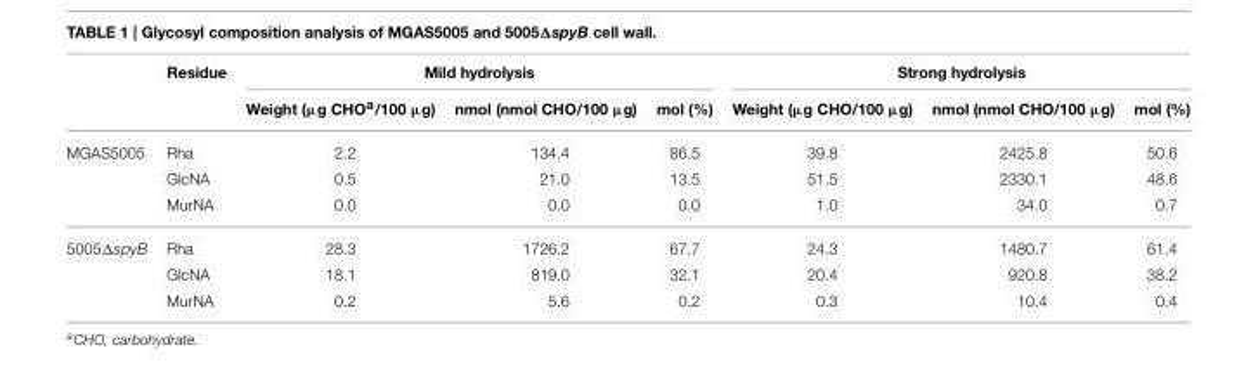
<table><thead><tr><td rowspan="2"></td><td rowspan="2">Residue</td><td colspan="3">Mild hydrolysis</td><td colspan="3">Strong hydrolysis</td></tr><tr><td>Weight (µg CHO<sup>a</sup>/100 µg)</td><td>nmol (nmol CHO/100 µg)</td><td>mol (%)</td><td>Weight (µg CHO/100 µg)</td><td>nmol (nmol CHO/100 µg)</td><td>mol (%)</td></tr></thead><tbody><tr><td rowspan="3">MGAS5005</td><td>Rha</td><td>2.2</td><td>134.4</td><td>86.5</td><td>39.8</td><td>2425.8</td><td>50.6</td></tr><tr><td>GlcNA</td><td>0.5</td><td>21.0</td><td>13.5</td><td>51.5</td><td>2330.1</td><td>48.6</td></tr><tr><td>MurNA</td><td>0.0</td><td>0.0</td><td>0.0</td><td>1.0</td><td>34.0</td><td>0.7</td></tr><tr><td rowspan="3">5005ΔspyB</td><td>Rha</td><td>28.3</td><td>1726.2</td><td>67.7</td><td>24.3</td><td>1480.7</td><td>61.4</td></tr><tr><td>GlcNA</td><td>18.1</td><td>819.0</td><td>32.1</td><td>20.4</td><td>920.8</td><td>38.2</td></tr><tr><td>MurNA</td><td>0.2</td><td>5.6</td><td>0.2</td><td>0.3</td><td>10.4</td><td>0.4</td></tr></tbody></table>